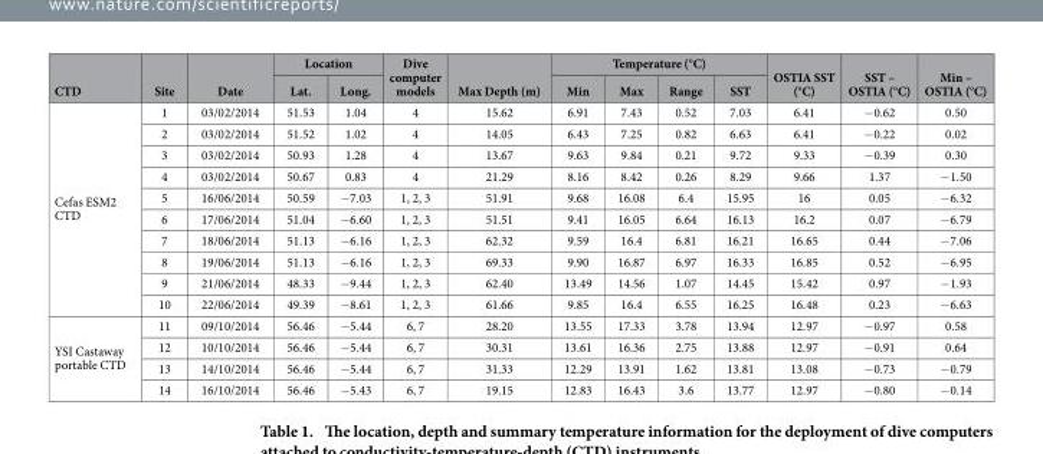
<table><thead><tr><td rowspan="2">CTD</td><td rowspan="2">Site</td><td rowspan="2">Date</td><td colspan="2">Location</td><td rowspan="2">Dive computer models</td><td rowspan="2">Max Depth (m)</td><td colspan="4">Temperature (°C)</td><td rowspan="2">OSTIA SST (°C)</td><td rowspan="2">SST – OSTIA (°C)</td><td rowspan="2">Min – OSTIA (°C)</td></tr><tr><td>Lat.</td><td>Long.</td><td>Min</td><td>Max</td><td>Range</td><td>SST</td></tr></thead><tbody><tr><td rowspan="10">Cefas ESM2 CTD</td><td>1</td><td>03/02/2014</td><td>51.53</td><td>1.04</td><td>4</td><td>15.62</td><td>6.91</td><td>7.43</td><td>0.52</td><td>7.03</td><td>6.41</td><td>−0.62</td><td>0.50</td></tr><tr><td>2</td><td>03/02/2014</td><td>51.52</td><td>1.02</td><td>4</td><td>14.05</td><td>6.43</td><td>7.25</td><td>0.82</td><td>6.63</td><td>6.41</td><td>−0.22</td><td>0.02</td></tr><tr><td>3</td><td>03/02/2014</td><td>50.93</td><td>1.28</td><td>4</td><td>13.67</td><td>9.63</td><td>9.84</td><td>0.21</td><td>9.72</td><td>9.33</td><td>−0.39</td><td>0.30</td></tr><tr><td>4</td><td>03/02/2014</td><td>50.67</td><td>0.83</td><td>4</td><td>21.29</td><td>8.16</td><td>8.42</td><td>0.26</td><td>8.29</td><td>9.66</td><td>1.37</td><td>−1.50</td></tr><tr><td>5</td><td>16/06/2014</td><td>50.59</td><td>−7.03</td><td>1, 2, 3</td><td>51.91</td><td>9.68</td><td>16.08</td><td>6.4</td><td>15.95</td><td>16</td><td>0.05</td><td>−6.32</td></tr><tr><td>6</td><td>17/06/2014</td><td>51.04</td><td>−6.60</td><td>1, 2, 3</td><td>51.51</td><td>9.41</td><td>16.05</td><td>6.64</td><td>16.13</td><td>16.2</td><td>0.07</td><td>−6.79</td></tr><tr><td>7</td><td>18/06/2014</td><td>51.13</td><td>−6.16</td><td>1, 2, 3</td><td>62.32</td><td>9.59</td><td>16.4</td><td>6.81</td><td>16.21</td><td>16.65</td><td>0.44</td><td>−7.06</td></tr><tr><td>8</td><td>19/06/2014</td><td>51.13</td><td>−6.16</td><td>1, 2, 3</td><td>69.33</td><td>9.90</td><td>16.87</td><td>6.97</td><td>16.33</td><td>16.85</td><td>0.52</td><td>−6.95</td></tr><tr><td>9</td><td>21/06/2014</td><td>48.33</td><td>−9.44</td><td>1, 2, 3</td><td>62.40</td><td>13.49</td><td>14.56</td><td>1.07</td><td>14.45</td><td>15.42</td><td>0.97</td><td>−1.93</td></tr><tr><td>10</td><td>22/06/2014</td><td>49.39</td><td>−8.61</td><td>1, 2, 3</td><td>61.66</td><td>9.85</td><td>16.4</td><td>6.55</td><td>16.25</td><td>16.48</td><td>0.23</td><td>−6.63</td></tr><tr><td rowspan="4">YSI Castaway portable CTD</td><td>11</td><td>09/10/2014</td><td>56.46</td><td>−5.44</td><td>6, 7</td><td>28.20</td><td>13.55</td><td>17.33</td><td>3.78</td><td>13.94</td><td>12.97</td><td>−0.97</td><td>0.58</td></tr><tr><td>12</td><td>10/10/2014</td><td>56.46</td><td>−5.44</td><td>6, 7</td><td>30.31</td><td>13.61</td><td>16.36</td><td>2.75</td><td>13.88</td><td>12.97</td><td>−0.91</td><td>0.64</td></tr><tr><td>13</td><td>14/10/2014</td><td>56.46</td><td>−5.44</td><td>6, 7</td><td>31.33</td><td>12.29</td><td>13.91</td><td>1.62</td><td>13.81</td><td>13.08</td><td>−0.73</td><td>−0.79</td></tr><tr><td>14</td><td>16/10/2014</td><td>56.46</td><td>−5.43</td><td>6, 7</td><td>19.15</td><td>12.83</td><td>16.43</td><td>3.6</td><td>13.77</td><td>12.97</td><td>−0.80</td><td>−0.14</td></tr></tbody></table>